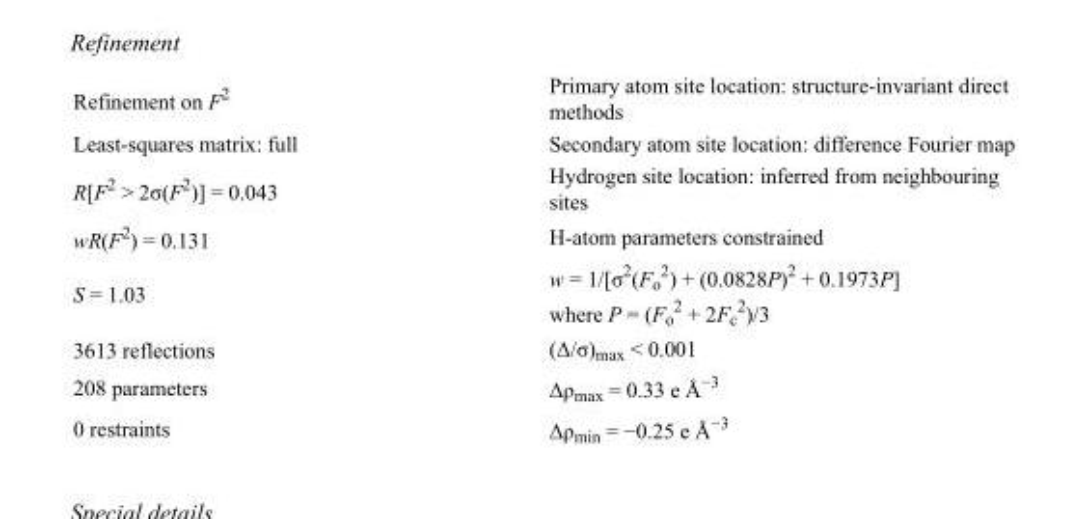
<table><tbody><tr><td>Refinement on F<sup>2</sup></td><td>Primary atom site location: structure-invariant direct methods</td></tr><tr><td>Least-squares matrix: full</td><td>Secondary atom site location: difference Fourier map</td></tr><tr><td>R[F<sup>2</sup> &gt; 2σ(F<sup>2</sup>)] = 0.043</td><td>Hydrogen site location: inferred from neighbouring sites</td></tr><tr><td>wR(F<sup>2</sup>) = 0.131</td><td>H-atom parameters constrained</td></tr><tr><td>S = 1.03</td><td>w = 1/[σ<sup>2</sup>(F<sub>o</sub> <sup>2</sup>) + (0.0828P)<sup>2</sup> + 0.1973P] where P = (F<sub>o</sub> <sup>2</sup> + 2F<sub>c</sub> <sup>2</sup>)/3</td></tr><tr><td>3613 reflections</td><td>(Δ/σ)<sub>max</sub> &lt; 0.001</td></tr><tr><td>208 parameters</td><td>Δρ<sub>max</sub> = 0.33 e Å<sup>−3</sup></td></tr><tr><td>0 restraints</td><td>Δρ<sub>min</sub> = −0.25 e Å<sup>−3</sup></td></tr></tbody></table>